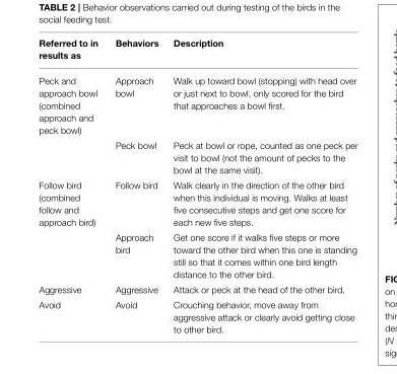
<table><thead><tr><td>Referred to in results as</td><td>Behaviors</td><td>Description</td></tr></thead><tbody><tr><td rowspan="2">Peck and approach bowl (combined approach and peck bowl)</td><td>Approach bowl</td><td>Walk up toward bowl (stopping) with head over or just next to bowl, only scored for the bird that approaches a bowl first.</td></tr><tr><td>Peck bowl</td><td>Peck at bowl or rope, counted as one peck per visit to bowl (not the amount of pecks to the bowl at the same visit).</td></tr><tr><td rowspan="2">Follow bird (combined follow and approach bird)</td><td>Follow bird</td><td>Walk clearly in the direction of the other bird when this individual is moving. Walks at least five consecutive steps and get one score for each new five steps.</td></tr><tr><td>Approach bird</td><td>Get one score if it walks five steps or more toward the other bird when this one is standing still so that it comes within one bird length distance to the other bird.</td></tr><tr><td>Aggressive</td><td>Aggressive</td><td>Attack or peck at the head of the other bird.</td></tr><tr><td>Avoid</td><td>Avoid</td><td>Crouching behavior, move away from aggressive attack or clearly avoid getting close to other bird.</td></tr></tbody></table>